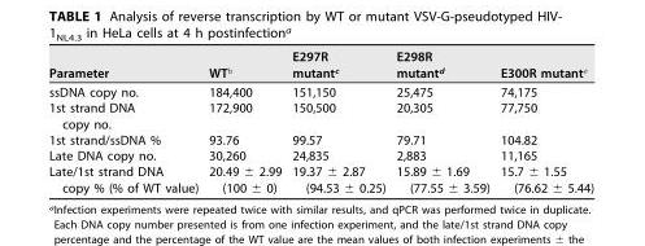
<table><thead><tr><td>Parameter</td><td>WT<sup>b</sup></td><td>E297R mutant<sup>c</sup></td><td>E298R mutant<sup>d</sup></td><td>E300R mutant<sup>e</sup></td></tr></thead><tbody><tr><td>ssDNA copy no.</td><td>184,400</td><td>151,150</td><td>25,475</td><td>74,175</td></tr><tr><td>1st strand DNA copy no.</td><td>172,900</td><td>150,500</td><td>20,305</td><td>77,750</td></tr><tr><td>1st strand/ssDNA %</td><td>93.76</td><td>99.57</td><td>79.71</td><td>104.82</td></tr><tr><td>Late DNA copy no.</td><td>30,260</td><td>24,835</td><td>2,883</td><td>11,165</td></tr><tr><td>Late/1st strand DNA copy % (% of WT value)</td><td>20.49 ± 2.99 (100 ± 0)</td><td>19.37 ± 2.87 (94.53 ± 0.25)</td><td>15.89 ± 1.69 (77.55 ± 3.59)</td><td>15.7 ± 1.55 (76.62 ± 5.44)</td></tr></tbody></table>